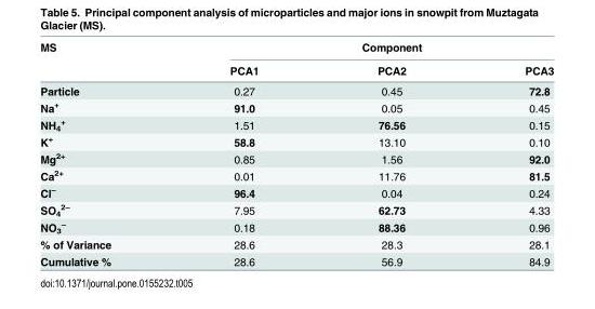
<table><thead><tr><td rowspan="2">MS</td><td colspan="3">Component</td></tr><tr><td>PCA1</td><td>PCA2</td><td>PCA3</td></tr></thead><tbody><tr><td>Particle</td><td>0.27</td><td>0.45</td><td>72.8</td></tr><tr><td>Na<sup>+</sup></td><td>91.0</td><td>0.05</td><td>0.45</td></tr><tr><td>NH<sub>4</sub> <sup>+</sup></td><td>1.51</td><td>76.56</td><td>0.15</td></tr><tr><td>K<sup>+</sup></td><td>58.8</td><td>13.10</td><td>0.10</td></tr><tr><td>Mg<sup>2+</sup></td><td>0.85</td><td>1.56</td><td>92.0</td></tr><tr><td>Ca<sup>2+</sup></td><td>0.01</td><td>11.76</td><td>81.5</td></tr><tr><td>Cl<sup>–</sup></td><td>96.4</td><td>0.04</td><td>0.24</td></tr><tr><td>SO<sub>4</sub> <sup>2–</sup></td><td>7.95</td><td>62.73</td><td>4.33</td></tr><tr><td>NO<sub>3</sub> <sup>–</sup></td><td>0.18</td><td>88.36</td><td>0.96</td></tr><tr><td>% of Variance</td><td>28.6</td><td>28.3</td><td>28.1</td></tr><tr><td>Cumulative %</td><td>28.6</td><td>56.9</td><td>84.9</td></tr></tbody></table>